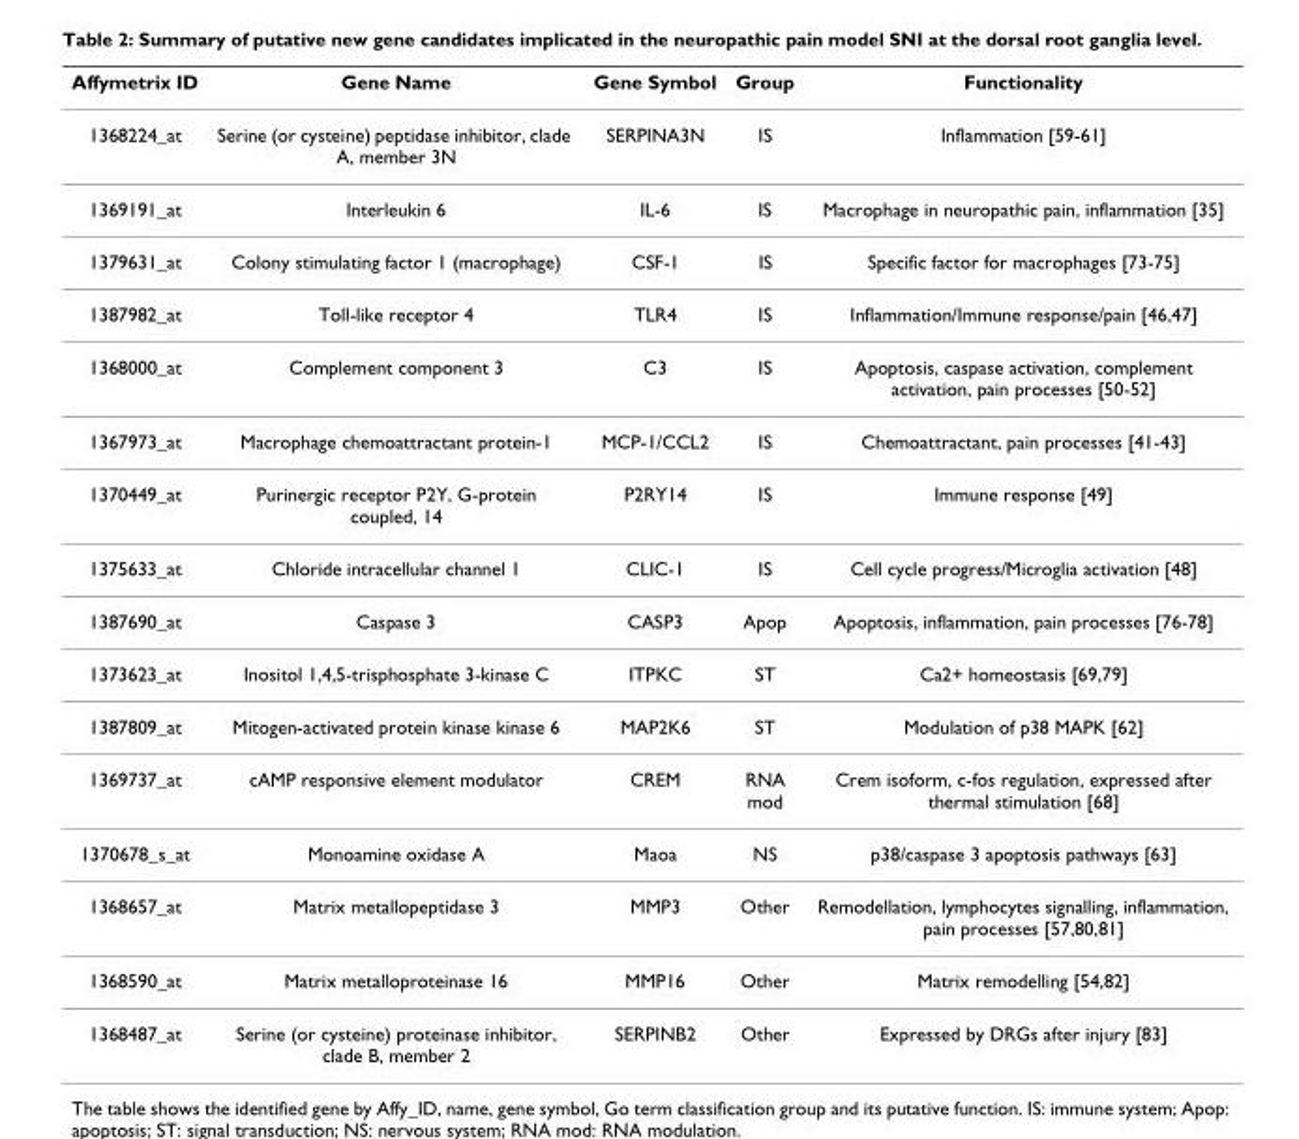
<table><thead><tr><td>Affymetrix ID</td><td>Gene Name</td><td>Gene Symbol</td><td>Group</td><td>Functionality</td></tr></thead><tbody><tr><td>1368224_at</td><td>Serine (or cysteine) peptidase inhibitor, clade A, member 3N</td><td>SERPINA3N</td><td>IS</td><td>Inflammation [59-61]</td></tr><tr><td>1369191_at</td><td>Interleukin 6</td><td>IL-6</td><td>IS</td><td>Macrophage in neuropathic pain, inflammation [35]</td></tr><tr><td>1379631_at</td><td>Colony stimulating factor 1 (macrophage)</td><td>CSF-1</td><td>IS</td><td>Specific factor for macrophages [73-75]</td></tr><tr><td>1387982_at</td><td>Toll-like receptor 4</td><td>TLR4</td><td>IS</td><td>Inflammation/Immune response/pain [46,47]</td></tr><tr><td>1368000_at</td><td>Complement component 3</td><td>C3</td><td>IS</td><td>Apoptosis, caspase activation, complement activation, pain processes [50-52]</td></tr><tr><td>1367973_at</td><td>Macrophage chemoattractant protein-1</td><td>MCP-1/CCL2</td><td>IS</td><td>Chemoattractant, pain processes [41-43]</td></tr><tr><td>1370449_at</td><td>Purinergic receptor P2Y, G-protein coupled, 14</td><td>P2RY14</td><td>IS</td><td>Immune response [49]</td></tr><tr><td>1375633_at</td><td>Chloride intracellular channel 1</td><td>CLIC-1</td><td>IS</td><td>Cell cycle progress/Microglia activation [48]</td></tr><tr><td>1387690_at</td><td>Caspase 3</td><td>CASP3</td><td>Apop</td><td>Apoptosis, inflammation, pain processes [76-78]</td></tr><tr><td>1373623_at</td><td>Inositol 1,4,5-trisphosphate 3-kinase C</td><td>ITPKC</td><td>ST</td><td>Ca2+ homeostasis [69,79]</td></tr><tr><td>1387809_at</td><td>Mitogen-activated protein kinase kinase 6</td><td>MAP2K6</td><td>ST</td><td>Modulation of p38 MAPK [62]</td></tr><tr><td>1369737_at</td><td>cAMP responsive element modulator</td><td>CREM</td><td>RNA mod</td><td>Crem isoform, c-fos regulation, expressed after thermal stimulation [68]</td></tr><tr><td>1370678_s_at</td><td>Monoamine oxidase A</td><td>Maoa</td><td>NS</td><td>p38/caspase 3 apoptosis pathways [63]</td></tr><tr><td>1368657_at</td><td>Matrix metallopeptidase 3</td><td>MMP3</td><td>Other</td><td>Remodellation, lymphocytes signalling, inflammation, pain processes [57,80,81]</td></tr><tr><td>1368590_at</td><td>Matrix metalloproteinase 16</td><td>MMP16</td><td>Other</td><td>Matrix remodelling [54,82]</td></tr><tr><td>1368487_at</td><td>Serine (or cysteine) proteinase inhibitor, clade B, member 2</td><td>SERPINB2</td><td>Other</td><td>Expressed by DRGs after injury [83]</td></tr></tbody></table>